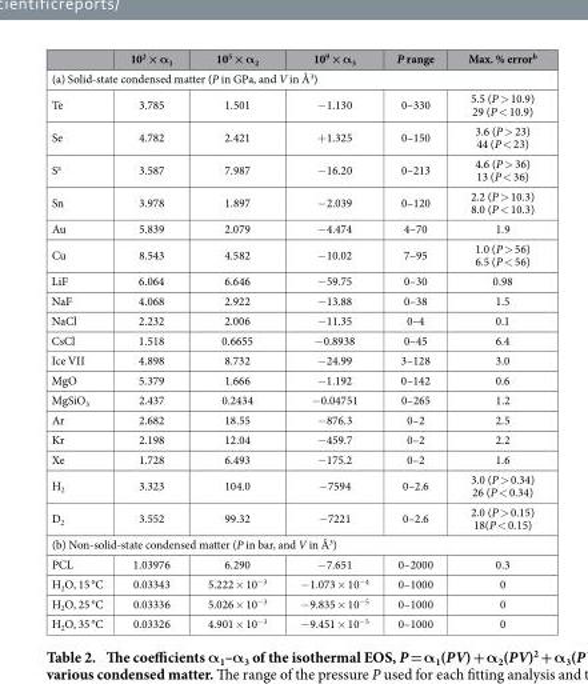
<table><thead><tr><td></td><td>10<sup>2</sup> × α<sub>1</sub></td><td>10<sup>5</sup> × α<sub>2</sub></td><td>10<sup>9</sup> × α<sub>3</sub></td><td>P range</td><td>Max. % error<sup>b</sup></td></tr></thead><tbody><tr><td colspan="6">(a) Solid-state condensed matter (P in GPa, and V in Å<sup>3</sup>)</td></tr><tr><td>Te</td><td>3.785</td><td>1.501</td><td>− 1.130</td><td>0–330</td><td>5.5 (P &gt; 10.9) 29 (P &lt; 10.9)</td></tr><tr><td>Se</td><td>4.782</td><td>2.421</td><td>+ 1.325</td><td>0–150</td><td>3.6 (P &gt; 23) 44 (P &lt; 23)</td></tr><tr><td>S<sup>a</sup></td><td>3.587</td><td>7.987</td><td>− 16.20</td><td>0–213</td><td>4.6 (P &gt; 36) 13 (P &lt; 36)</td></tr><tr><td>Sn</td><td>3.978</td><td>1.897</td><td>− 2.039</td><td>0–120</td><td>2.2 (P &gt; 10.3) 8.0 (P &lt; 10.3)</td></tr><tr><td>Au</td><td>5.839</td><td>2.079</td><td>− 4.474</td><td>4–70</td><td>1.9</td></tr><tr><td>Cu</td><td>8.543</td><td>4.582</td><td>− 10.02</td><td>7–95</td><td>1.0 (P &gt; 56) 6.5 (P &lt; 56)</td></tr><tr><td>LiF</td><td>6.064</td><td>6.646</td><td>− 59.75</td><td>0–30</td><td>0.98</td></tr><tr><td>NaF</td><td>4.068</td><td>2.922</td><td>− 13.88</td><td>0–38</td><td>1.5</td></tr><tr><td>NaCl</td><td>2.232</td><td>2.006</td><td>− 11.35</td><td>0–4</td><td>0.1</td></tr><tr><td>CsCl</td><td>1.518</td><td>0.6655</td><td>− 0.8938</td><td>0–45</td><td>6.4</td></tr><tr><td>Ice VII</td><td>4.898</td><td>8.732</td><td>− 24.99</td><td>3–128</td><td>3.0</td></tr><tr><td>MgO</td><td>5.379</td><td>1.666</td><td>− 1.192</td><td>0–142</td><td>0.6</td></tr><tr><td>MgSiO<sub>3</sub></td><td>2.437</td><td>0.2434</td><td>− 0.04751</td><td>0–265</td><td>1.2</td></tr><tr><td>Ar</td><td>2.682</td><td>18.55</td><td>− 876.3</td><td>0–2</td><td>2.5</td></tr><tr><td>Kr</td><td>2.198</td><td>12.04</td><td>− 459.7</td><td>0–2</td><td>2.2</td></tr><tr><td>Xe</td><td>1.728</td><td>6.493</td><td>− 175.2</td><td>0–2</td><td>1.6</td></tr><tr><td>H<sub>2</sub></td><td>3.323</td><td>104.0</td><td>− 7594</td><td>0–2.6</td><td>3.0 (P &gt; 0.34) 26 (P &lt; 0.34)</td></tr><tr><td>D<sub>2</sub></td><td>3.552</td><td>99.32</td><td>− 7221</td><td>0–2.6</td><td>2.0 (P &gt; 0.15) 18(P &lt; 0.15)</td></tr><tr><td colspan="6">(b) Non-solid-state condensed matter (P in bar, and V in Å<sup>3</sup>)</td></tr><tr><td>PCL</td><td>1.03976</td><td>6.290</td><td>− 7.651</td><td>0–2000</td><td>0.3</td></tr><tr><td>H<sub>2</sub>O, 15 °C</td><td>0.03343</td><td>5.222 × 10<sup>−3</sup></td><td>− 1.073 × 10<sup>−4</sup></td><td>0–1000</td><td>0</td></tr><tr><td>H<sub>2</sub>O, 25 °C</td><td>0.03336</td><td>5.026 × 10<sup>−3</sup></td><td>− 9.835 × 10<sup>−5</sup></td><td>0–1000</td><td>0</td></tr><tr><td>H<sub>2</sub>O, 35 °C</td><td>0.03326</td><td>4.901 × 10<sup>−3</sup></td><td>− 9.451 × 10<sup>−5</sup></td><td>0–1000</td><td>0</td></tr></tbody></table>